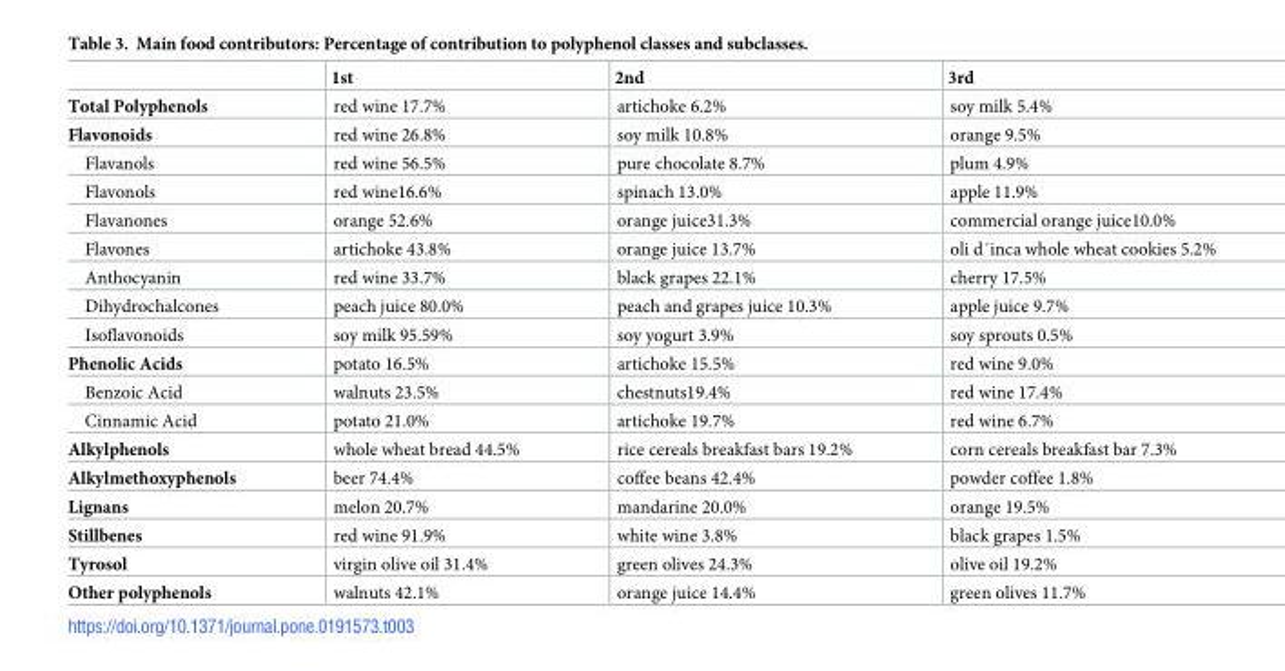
<table><thead><tr><td></td><td>1st</td><td>2nd</td><td>3rd</td></tr></thead><tbody><tr><td>Total Polyphenols</td><td>red wine 17.7%</td><td>artichoke 6.2%</td><td>soy milk 5.4%</td></tr><tr><td>Flavonoids</td><td>red wine 26.8%</td><td>soy milk 10.8%</td><td>orange 9.5%</td></tr><tr><td>Flavanols</td><td>red wine 56.5%</td><td>pure chocolate 8.7%</td><td>plum 4.9%</td></tr><tr><td>Flavonols</td><td>red wine16.6%</td><td>spinach 13.0%</td><td>apple 11.9%</td></tr><tr><td>Flavanones</td><td>orange 52.6%</td><td>orange juice31.3%</td><td>commercial orange juice10.0%</td></tr><tr><td>Flavones</td><td>artichoke 43.8%</td><td>orange juice 13.7%</td><td>oli d´inca whole wheat cookies 5.2%</td></tr><tr><td>Anthocyanin</td><td>red wine 33.7%</td><td>black grapes 22.1%</td><td>cherry 17.5%</td></tr><tr><td>Dihydrochalcones</td><td>peach juice 80.0%</td><td>peach and grapes juice 10.3%</td><td>apple juice 9.7%</td></tr><tr><td>Isoflavonoids</td><td>soy milk 95.59%</td><td>soy yogurt 3.9%</td><td>soy sprouts 0.5%</td></tr><tr><td>Phenolic Acids</td><td>potato 16.5%</td><td>artichoke 15.5%</td><td>red wine 9.0%</td></tr><tr><td>Benzoic Acid</td><td>walnuts 23.5%</td><td>chestnuts19.4%</td><td>red wine 17.4%</td></tr><tr><td>Cinnamic Acid</td><td>potato 21.0%</td><td>artichoke 19.7%</td><td>red wine 6.7%</td></tr><tr><td>Alkylphenols</td><td>whole wheat bread 44.5%</td><td>rice cereals breakfast bars 19.2%</td><td>corn cereals breakfast bar 7.3%</td></tr><tr><td>Alkylmethoxyphenols</td><td>beer 74.4%</td><td>coffee beans 42.4%</td><td>powder coffee 1.8%</td></tr><tr><td>Lignans</td><td>melon 20.7%</td><td>mandarine 20.0%</td><td>orange 19.5%</td></tr><tr><td>Stillbenes</td><td>red wine 91.9%</td><td>white wine 3.8%</td><td>black grapes 1.5%</td></tr><tr><td>Tyrosol</td><td>virgin olive oil 31.4%</td><td>green olives 24.3%</td><td>olive oil 19.2%</td></tr><tr><td>Other polyphenols</td><td>walnuts 42.1%</td><td>orange juice 14.4%</td><td>green olives 11.7%</td></tr></tbody></table>